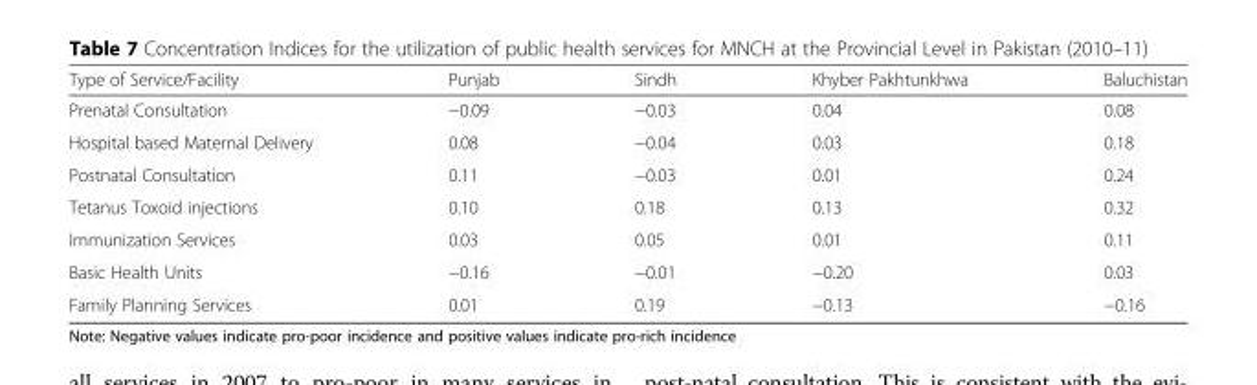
<table><thead><tr><td>Type of Service/Facility</td><td>Punjab</td><td>Sindh</td><td>Khyber Pakhtunkhwa</td><td>Baluchistan</td></tr></thead><tbody><tr><td>Prenatal Consultation</td><td>−0.09</td><td>−0.03</td><td>0.04</td><td>0.08</td></tr><tr><td>Hospital based Maternal Delivery</td><td>0.08</td><td>−0.04</td><td>0.03</td><td>0.18</td></tr><tr><td>Postnatal Consultation</td><td>0.11</td><td>−0.03</td><td>0.01</td><td>0.24</td></tr><tr><td>Tetanus Toxoid injections</td><td>0.10</td><td>0.18</td><td>0.13</td><td>0.32</td></tr><tr><td>Immunization Services</td><td>0.03</td><td>0.05</td><td>0.01</td><td>0.11</td></tr><tr><td>Basic Health Units</td><td>−0.16</td><td>−0.01</td><td>−0.20</td><td>0.03</td></tr><tr><td>Family Planning Services</td><td>0.01</td><td>0.19</td><td>−0.13</td><td>−0.16</td></tr></tbody></table>